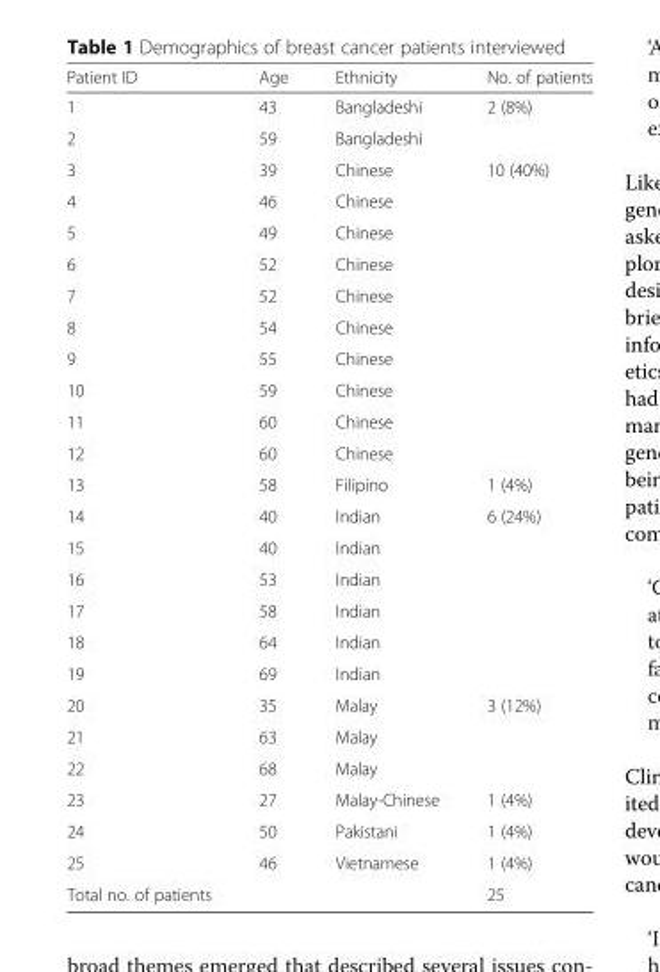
<table><thead><tr><td>Patient ID</td><td>Age</td><td>Ethnicity</td><td>No. of patients</td></tr></thead><tbody><tr><td>1</td><td>43</td><td>Bangladeshi</td><td>2 (8%)</td></tr><tr><td>2</td><td>59</td><td>Bangladeshi</td><td></td></tr><tr><td>3</td><td>39</td><td>Chinese</td><td>10 (40%)</td></tr><tr><td>4</td><td>46</td><td>Chinese</td><td></td></tr><tr><td>5</td><td>49</td><td>Chinese</td><td></td></tr><tr><td>6</td><td>52</td><td>Chinese</td><td></td></tr><tr><td>7</td><td>52</td><td>Chinese</td><td></td></tr><tr><td>8</td><td>54</td><td>Chinese</td><td></td></tr><tr><td>9</td><td>55</td><td>Chinese</td><td></td></tr><tr><td>10</td><td>59</td><td>Chinese</td><td></td></tr><tr><td>11</td><td>60</td><td>Chinese</td><td></td></tr><tr><td>12</td><td>60</td><td>Chinese</td><td></td></tr><tr><td>13</td><td>58</td><td>Filipino</td><td>1 (4%)</td></tr><tr><td>14</td><td>40</td><td>Indian</td><td>6 (24%)</td></tr><tr><td>15</td><td>40</td><td>Indian</td><td></td></tr><tr><td>16</td><td>53</td><td>Indian</td><td></td></tr><tr><td>17</td><td>58</td><td>Indian</td><td></td></tr><tr><td>18</td><td>64</td><td>Indian</td><td></td></tr><tr><td>19</td><td>69</td><td>Indian</td><td></td></tr><tr><td>20</td><td>35</td><td>Malay</td><td>3 (12%)</td></tr><tr><td>21</td><td>63</td><td>Malay</td><td></td></tr><tr><td>22</td><td>68</td><td>Malay</td><td></td></tr><tr><td>23</td><td>27</td><td>Malay-Chinese</td><td>1 (4%)</td></tr><tr><td>24</td><td>50</td><td>Pakistani</td><td>1 (4%)</td></tr><tr><td>25</td><td>46</td><td>Vietnamese</td><td>1 (4%)</td></tr><tr><td>Total no. of patients</td><td></td><td></td><td>25</td></tr></tbody></table>